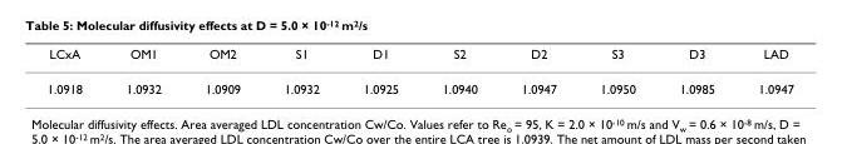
<table><thead><tr><td>LCxA</td><td>OM1</td><td>OM2</td><td>S1</td><td>D1</td><td>S2</td><td>D2</td><td>S3</td><td>D3</td><td>LAD</td></tr></thead><tbody><tr><td>1.0918</td><td>1.0932</td><td>1.0909</td><td>1.0932</td><td>1.0925</td><td>1.0940</td><td>1.0947</td><td>1.0950</td><td>1.0985</td><td>1.0947</td></tr></tbody></table>